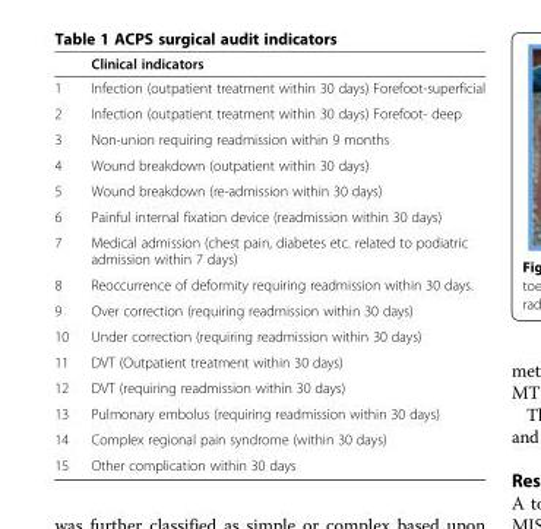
<table><thead><tr><td></td><td>Clinical indicators</td></tr></thead><tbody><tr><td>1</td><td>Infection (outpatient treatment within 30 days) Forefoot-superficial</td></tr><tr><td>2</td><td>Infection (outpatient treatment within 30 days) Forefoot- deep</td></tr><tr><td>3</td><td>Non-union requiring readmission within 9 months</td></tr><tr><td>4</td><td>Wound breakdown (outpatient within 30 days)</td></tr><tr><td>5</td><td>Wound breakdown (re-admission within 30 days)</td></tr><tr><td>6</td><td>Painful internal fixation device (readmission within 30 days)</td></tr><tr><td>7</td><td>Medical admission (chest pain, diabetes etc. related to podiatric admission within 7 days)</td></tr><tr><td>8</td><td>Reoccurrence of deformity requiring readmission within 30 days.</td></tr><tr><td>9</td><td>Over correction (requiring readmission within 30 days)</td></tr><tr><td>10</td><td>Under correction (requiring readmission within 30 days)</td></tr><tr><td>11</td><td>DVT (Outpatient treatment within 30 days)</td></tr><tr><td>12</td><td>DVT (requiring readmission within 30 days)</td></tr><tr><td>13</td><td>Pulmonary embolus (requiring readmission within 30 days)</td></tr><tr><td>14</td><td>Complex regional pain syndrome (within 30 days)</td></tr><tr><td>15</td><td>Other complication within 30 days</td></tr></tbody></table>